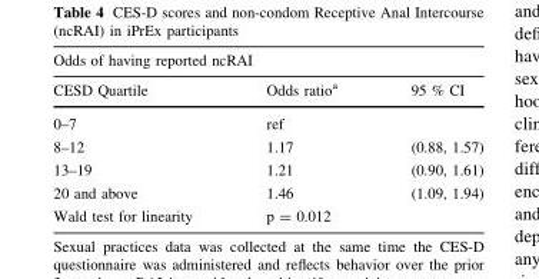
<table><thead><tr><td colspan="3">Odds of having reported ncRAI</td></tr><tr><td>CESD Quartile</td><td>Odds ratio<sup>a</sup></td><td>95 % CI</td></tr></thead><tbody><tr><td>0–7</td><td colspan="2">ref</td></tr><tr><td>8–12</td><td>1.17</td><td>(0.88, 1.57)</td></tr><tr><td>13–19</td><td>1.21</td><td>(0.90, 1.61)</td></tr><tr><td>20 and above</td><td>1.46</td><td>(1.09, 1.94)</td></tr><tr><td>Wald test for linearity</td><td colspan="2">p = 0.012</td></tr></tbody></table>